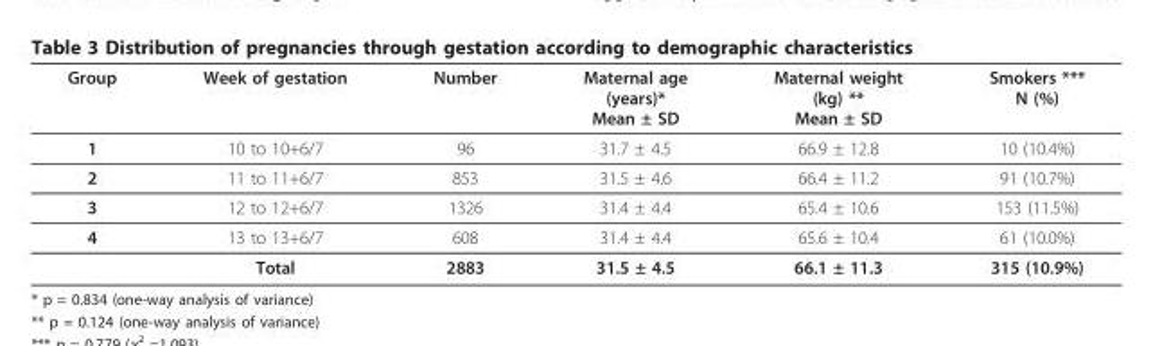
<table><thead><tr><td>Group</td><td>Week of gestation</td><td>Number</td><td>Maternal age (years)* Mean ± SD</td><td>Maternal weight (kg) ** Mean ± SD</td><td>Smokers *** N (%)</td></tr></thead><tbody><tr><td>1</td><td>10 to 10+6/7</td><td>96</td><td>31.7 ± 4.5</td><td>66.9 ± 12.8</td><td>10 (10.4%)</td></tr><tr><td>2</td><td>11 to 11+6/7</td><td>853</td><td>31.5 ± 4.6</td><td>66.4 ± 11.2</td><td>91 (10.7%)</td></tr><tr><td>3</td><td>12 to 12+6/7</td><td>1326</td><td>31.4 ± 4.4</td><td>65.4 ± 10.6</td><td>153 (11.5%)</td></tr><tr><td rowspan="2">4</td><td>13 to 13+6/7</td><td>608</td><td>31.4 ± 4.4</td><td>65.6 ± 10.4</td><td>61 (10.0%)</td></tr><tr><td>Total</td><td>2883</td><td>31.5 ± 4.5</td><td>66.1 ± 11.3</td><td>315 (10.9%)</td></tr></tbody></table>